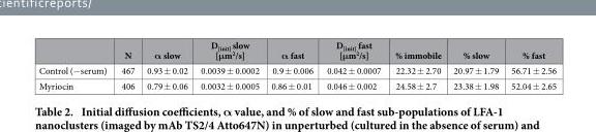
<table><thead><tr><td></td><td>N</td><td>α slow</td><td>D<sub>[init]</sub> slow [μm<sup>2</sup>/s]</td><td>α fast</td><td>D<sub>[init]</sub> fast [μm<sup>2</sup>/s]</td><td>% immobile</td><td>% slow</td><td>% fast</td></tr></thead><tbody><tr><td>Control (−serum)</td><td>467</td><td>0.93 ± 0.02</td><td>0.0039 ± 0.0002</td><td>0.9 ± 0.006</td><td>0.042 ± 0.0007</td><td>22.32 ± 2.70</td><td>20.97 ± 1.79</td><td>56.71 ± 2.56</td></tr><tr><td>Myriocin</td><td>406</td><td>0.79 ± 0.06</td><td>0.0032 ± 0.0005</td><td>0.86 ± 0.01</td><td>0.046 ± 0.002</td><td>24.58 ± 2.7</td><td>23.38 ± 1.98</td><td>52.04 ± 2.65</td></tr></tbody></table>